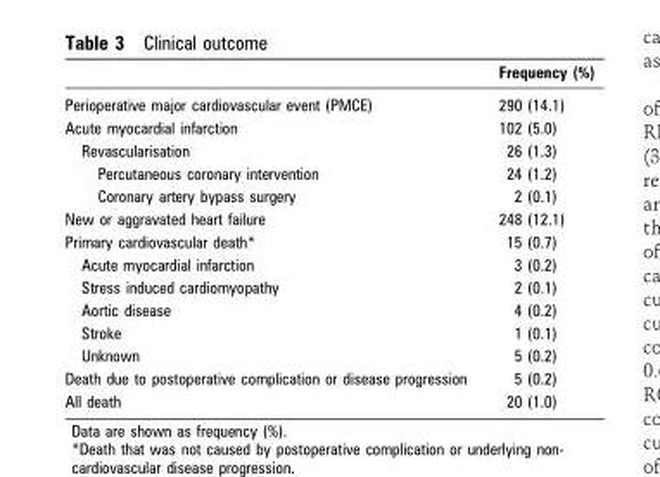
<table><thead><tr><td></td><td>Frequency (%)</td></tr></thead><tbody><tr><td>Perioperative major cardiovascular event (PMCE)</td><td>290 (14.1)</td></tr><tr><td>Acute myocardial infarction</td><td>102 (5.0)</td></tr><tr><td>Revascularisation</td><td>26 (1.3)</td></tr><tr><td>Percutaneous coronary intervention</td><td>24 (1.2)</td></tr><tr><td>Coronary artery bypass surgery</td><td>2 (0.1)</td></tr><tr><td>New or aggravated heart failure</td><td>248 (12.1)</td></tr><tr><td>Primary cardiovascular death*</td><td>15 (0.7)</td></tr><tr><td>Acute myocardial infarction</td><td>3 (0.2)</td></tr><tr><td>Stress induced cardiomyopathy</td><td>2 (0.1)</td></tr><tr><td>Aortic disease</td><td>4 (0.2)</td></tr><tr><td>Stroke</td><td>1 (0.1)</td></tr><tr><td>Unknown</td><td>5 (0.2)</td></tr><tr><td>Death due to postoperative complication or disease progression</td><td>5 (0.2)</td></tr><tr><td>All death</td><td>20 (1.0)</td></tr></tbody></table>